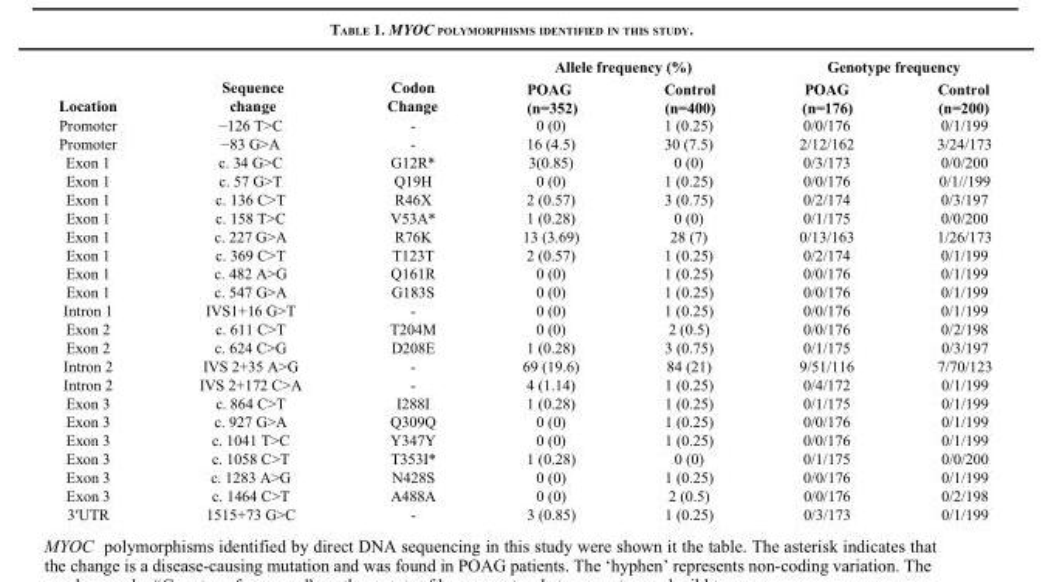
<table><thead><tr><td rowspan="2">Location</td><td rowspan="2">Sequence change</td><td rowspan="2">Codon Change</td><td colspan="2">Allele frequency (%)</td><td colspan="2">Genotype frequency</td></tr><tr><td>POAG (n=352)</td><td>Control (n=400)</td><td>POAG (n=176)</td><td>Control (n=200)</td></tr></thead><tbody><tr><td>Promoter</td><td>−126 T&gt;C</td><td>-</td><td>0 (0)</td><td>1 (0.25)</td><td>0/0/176</td><td>0/1/199</td></tr><tr><td>Promoter</td><td>−83 G&gt;A</td><td>-</td><td>16 (4.5)</td><td>30 (7.5)</td><td>2/12/162</td><td>3/24/173</td></tr><tr><td>Exon 1</td><td>c. 34 G&gt;C</td><td>G12R*</td><td>3(0.85)</td><td>0 (0)</td><td>0/3/173</td><td>0/0/200</td></tr><tr><td>Exon 1</td><td>c. 57 G&gt;T</td><td>Q19H</td><td>0 (0)</td><td>1 (0.25)</td><td>0/0/176</td><td>0/1//199</td></tr><tr><td>Exon 1</td><td>c. 136 C&gt;T</td><td>R46X</td><td>2 (0.57)</td><td>3 (0.75)</td><td>0/2/174</td><td>0/3/197</td></tr><tr><td>Exon 1</td><td>c. 158 T&gt;C</td><td>V53A*</td><td>1 (0.28)</td><td>0 (0)</td><td>0/1/175</td><td>0/0/200</td></tr><tr><td>Exon 1</td><td>c. 227 G&gt;A</td><td>R76K</td><td>13 (3.69)</td><td>28 (7)</td><td>0/13/163</td><td>1/26/173</td></tr><tr><td>Exon 1</td><td>c. 369 C&gt;T</td><td>T123T</td><td>2 (0.57)</td><td>1 (0.25)</td><td>0/2/174</td><td>0/1/199</td></tr><tr><td>Exon 1</td><td>c. 482 A&gt;G</td><td>Q161R</td><td>0 (0)</td><td>1 (0.25)</td><td>0/0/176</td><td>0/1/199</td></tr><tr><td>Exon 1</td><td>c. 547 G&gt;A</td><td>G183S</td><td>0 (0)</td><td>1 (0.25)</td><td>0/0/176</td><td>0/1/199</td></tr><tr><td>Intron 1</td><td>IVS1+16 G&gt;T</td><td>-</td><td>0 (0)</td><td>1 (0.25)</td><td>0/0/176</td><td>0/1/199</td></tr><tr><td>Exon 2</td><td>c. 611 C&gt;T</td><td>T204M</td><td>0 (0)</td><td>2 (0.5)</td><td>0/0/176</td><td>0/2/198</td></tr><tr><td>Exon 2</td><td>c. 624 C&gt;G</td><td>D208E</td><td>1 (0.28)</td><td>3 (0.75)</td><td>0/1/175</td><td>0/3/197</td></tr><tr><td>Intron 2</td><td>IVS 2+35 A&gt;G</td><td>-</td><td>69 (19.6)</td><td>84 (21)</td><td>9/51/116</td><td>7/70/123</td></tr><tr><td>Intron 2</td><td>IVS 2+172 C&gt;A</td><td>-</td><td>4 (1.14)</td><td>1 (0.25)</td><td>0/4/172</td><td>0/1/199</td></tr><tr><td>Exon 3</td><td>c. 864 C&gt;T</td><td>I288I</td><td>1 (0.28)</td><td>1 (0.25)</td><td>0/1/175</td><td>0/1/199</td></tr><tr><td>Exon 3</td><td>c. 927 G&gt;A</td><td>Q309Q</td><td>0 (0)</td><td>1 (0.25)</td><td>0/0/176</td><td>0/1/199</td></tr><tr><td>Exon 3</td><td>c. 1041 T&gt;C</td><td>Y347Y</td><td>0 (0)</td><td>1 (0.25)</td><td>0/0/176</td><td>0/1/199</td></tr><tr><td>Exon 3</td><td>c. 1058 C&gt;T</td><td>T353I*</td><td>1 (0.28)</td><td>0 (0)</td><td>0/1/175</td><td>0/0/200</td></tr><tr><td>Exon 3</td><td>c. 1283 A&gt;G</td><td>N428S</td><td>0 (0)</td><td>1 (0.25)</td><td>0/0/176</td><td>0/1/199</td></tr><tr><td>Exon 3</td><td>c. 1464 C&gt;T</td><td>A488A</td><td>0 (0)</td><td>2 (0.5)</td><td>0/0/176</td><td>0/2/198</td></tr><tr><td>3′UTR</td><td>1515+73 G&gt;C</td><td>-</td><td>3 (0.85)</td><td>1 (0.25)</td><td>0/3/173</td><td>0/1/199</td></tr></tbody></table>